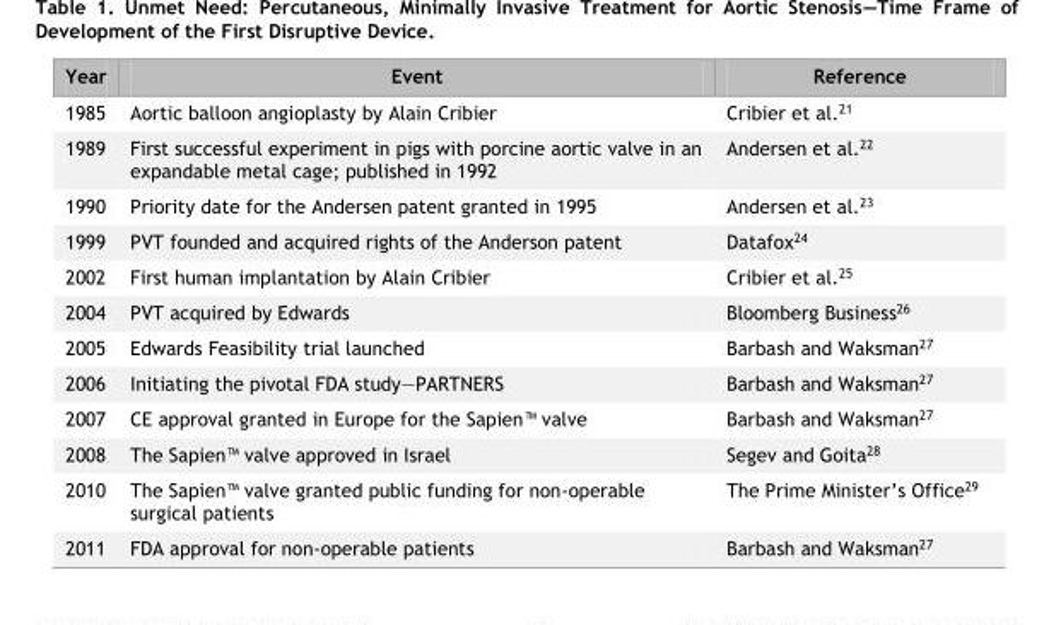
<table><thead><tr><td>Year</td><td>Event</td><td>Reference</td></tr></thead><tbody><tr><td>1985</td><td>Aortic balloon angioplasty by Alain Cribier</td><td>Cribier et al.<sup>21</sup></td></tr><tr><td>1989</td><td>First successful experiment in pigs with porcine aortic valve in an expandable metal cage; published in 1992</td><td>Andersen et al.<sup>22</sup></td></tr><tr><td>1990</td><td>Priority date for the Andersen patent granted in 1995</td><td>Andersen et al.<sup>23</sup></td></tr><tr><td>1999</td><td>PVT founded and acquired rights of the Anderson patent</td><td>Datafox<sup>24</sup></td></tr><tr><td>2002</td><td>First human implantation by Alain Cribier</td><td>Cribier et al.<sup>25</sup></td></tr><tr><td>2004</td><td>PVT acquired by Edwards</td><td>Bloomberg Business<sup>26</sup></td></tr><tr><td>2005</td><td>Edwards Feasibility trial launched</td><td>Barbash and Waksman<sup>27</sup></td></tr><tr><td>2006</td><td>Initiating the pivotal FDA study—PARTNERS</td><td>Barbash and Waksman<sup>27</sup></td></tr><tr><td>2007</td><td>CE approval granted in Europe for the Sapien<sup>™</sup> valve</td><td>Barbash and Waksman<sup>27</sup></td></tr><tr><td>2008</td><td>The Sapien<sup>™</sup> valve approved in Israel</td><td>Segev and Goita<sup>28</sup></td></tr><tr><td>2010</td><td>The Sapien<sup>™</sup> valve granted public funding for non-operable surgical patients</td><td>The Prime Minister’s Office<sup>29</sup></td></tr><tr><td>2011</td><td>FDA approval for non-operable patients</td><td>Barbash and Waksman<sup>27</sup></td></tr></tbody></table>